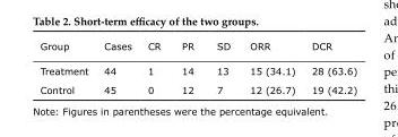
<table><thead><tr><td>Group</td><td>Cases</td><td>CR</td><td>PR</td><td>SD</td><td>ORR</td><td>DCR</td></tr></thead><tbody><tr><td>Treatment</td><td>44</td><td>1</td><td>14</td><td>13</td><td>15 (34.1)</td><td>28 (63.6)</td></tr><tr><td>Control</td><td>45</td><td>0</td><td>12</td><td>7</td><td>12 (26.7)</td><td>19 (42.2)</td></tr></tbody></table>